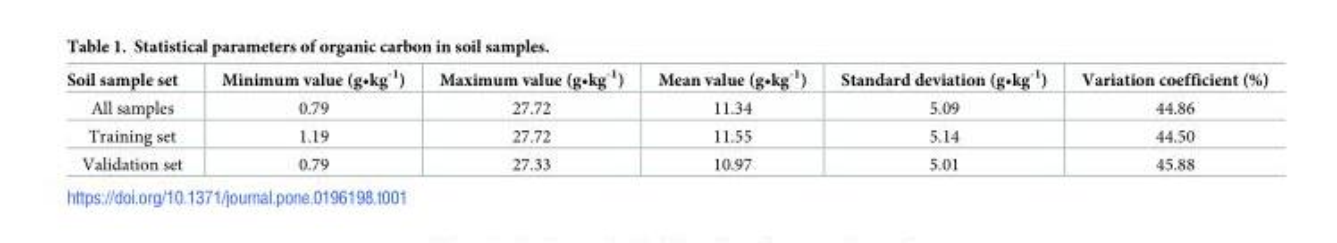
<table><thead><tr><td>Soil sample set</td><td>Minimum value (g•kg<sup>-1</sup>)</td><td>Maximum value (g•kg<sup>-1</sup>)</td><td>Mean value (g•kg<sup>-1</sup>)</td><td>Standard deviation (g•kg<sup>-1</sup>)</td><td>Variation coefficient (%)</td></tr></thead><tbody><tr><td>All samples</td><td>0.79</td><td>27.72</td><td>11.34</td><td>5.09</td><td>44.86</td></tr><tr><td>Training set</td><td>1.19</td><td>27.72</td><td>11.55</td><td>5.14</td><td>44.50</td></tr><tr><td>Validation set</td><td>0.79</td><td>27.33</td><td>10.97</td><td>5.01</td><td>45.88</td></tr></tbody></table>